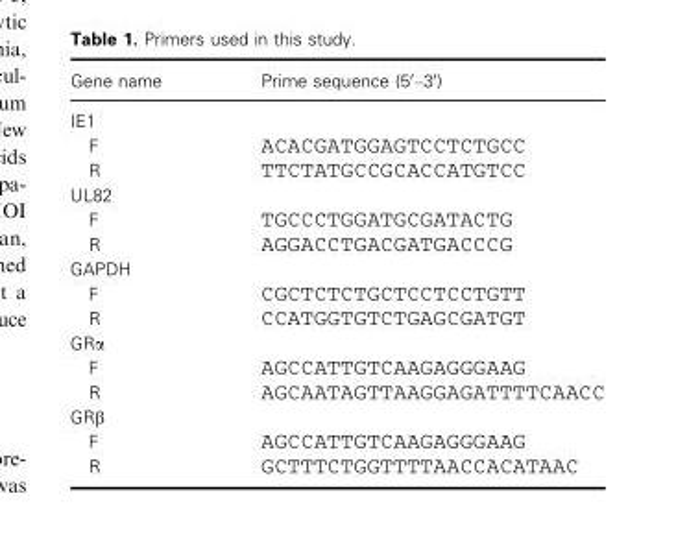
<table><thead><tr><td>Gene name</td><td>Prime sequence (5′–3′)</td></tr></thead><tbody><tr><td colspan="2">IE1</td></tr><tr><td>F</td><td>ACACGATGGAGTCCTCTGCC</td></tr><tr><td>R</td><td>TTCTATGCCGCACCATGTCC</td></tr><tr><td colspan="2">UL82</td></tr><tr><td>F</td><td>TGCCCTGGATGCGATACTG</td></tr><tr><td>R</td><td>AGGACCTGACGATGACCCG</td></tr><tr><td colspan="2">GAPDH</td></tr><tr><td>F</td><td>CGCTCTCTGCTCCTCCTGTT</td></tr><tr><td>R</td><td>CCATGGTGTCTGAGCGATGT</td></tr><tr><td colspan="2">GRα</td></tr><tr><td>F</td><td>AGCCATTGTCAAGAGGGAAG</td></tr><tr><td>R</td><td>AGCAATAGTTAAGGAGATTTTCAACC</td></tr><tr><td colspan="2">GRβ</td></tr><tr><td>F</td><td>AGCCATTGTCAAGAGGGAAG</td></tr><tr><td>R</td><td>GCTTTCTGGTTTTAACCACATAAC</td></tr></tbody></table>